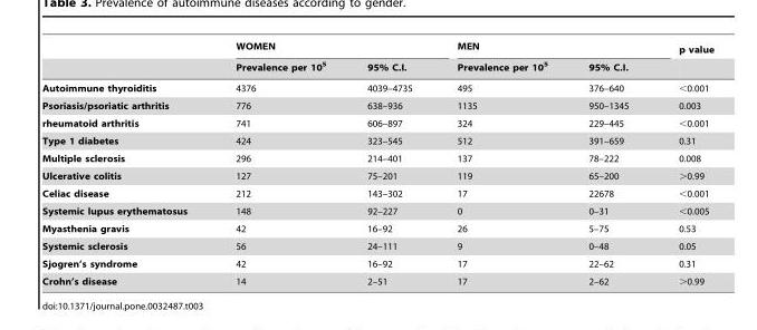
<table><thead><tr><td rowspan="2"></td><td colspan="2">WOMEN</td><td colspan="2">MEN</td><td rowspan="2">p value</td></tr><tr><td>Prevalence per 10<sup>5</sup></td><td>95% C.I.</td><td>Prevalence per 10<sup>5</sup></td><td>95% C.I.</td></tr></thead><tbody><tr><td>Autoimmune thyroiditis</td><td>4376</td><td>4039–4735</td><td>495</td><td>376–640</td><td>&lt;0.001</td></tr><tr><td>Psoriasis/psoriatic arthritis</td><td>776</td><td>638–936</td><td>1135</td><td>950–1345</td><td>0.003</td></tr><tr><td>rheumatoid arthritis</td><td>741</td><td>606–897</td><td>324</td><td>229–445</td><td>&lt;0.001</td></tr><tr><td>Type 1 diabetes</td><td>424</td><td>323–545</td><td>512</td><td>391–659</td><td>0.31</td></tr><tr><td>Multiple sclerosis</td><td>296</td><td>214–401</td><td>137</td><td>78–222</td><td>0.008</td></tr><tr><td>Ulcerative colitis</td><td>127</td><td>75–201</td><td>119</td><td>65–200</td><td>&gt;0.99</td></tr><tr><td>Celiac disease</td><td>212</td><td>143–302</td><td>17</td><td>22678</td><td>&lt;0.001</td></tr><tr><td>Systemic lupus erythematosus</td><td>148</td><td>92–227</td><td>0</td><td>0–31</td><td>&lt;0.005</td></tr><tr><td>Myasthenia gravis</td><td>42</td><td>16–92</td><td>26</td><td>5–75</td><td>0.53</td></tr><tr><td>Systemic sclerosis</td><td>56</td><td>24–111</td><td>9</td><td>0–48</td><td>0.05</td></tr><tr><td>Sjogren’s syndrome</td><td>42</td><td>16–92</td><td>17</td><td>22–62</td><td>0.31</td></tr><tr><td>Crohn’s disease</td><td>14</td><td>2–51</td><td>17</td><td>2–62</td><td>&gt;0.99</td></tr></tbody></table>